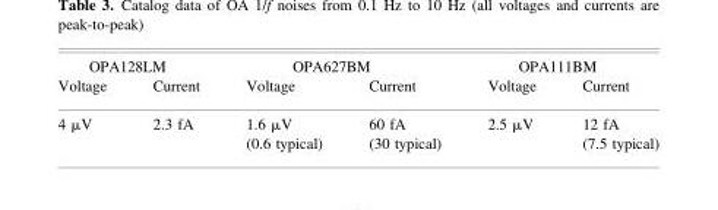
<table><thead><tr><td colspan="2">OPA128LM</td><td colspan="2">OPA627BM</td><td colspan="2">OPA111BM</td></tr><tr><td>Voltage</td><td>Current</td><td>Voltage</td><td>Current</td><td>Voltage</td><td>Current</td></tr></thead><tbody><tr><td>4 μV</td><td>2.3 fA</td><td>1.6 μV (0.6 typical)</td><td>60 fA (30 typical)</td><td>2.5 μV</td><td>12 fA (7.5 typical)</td></tr></tbody></table>